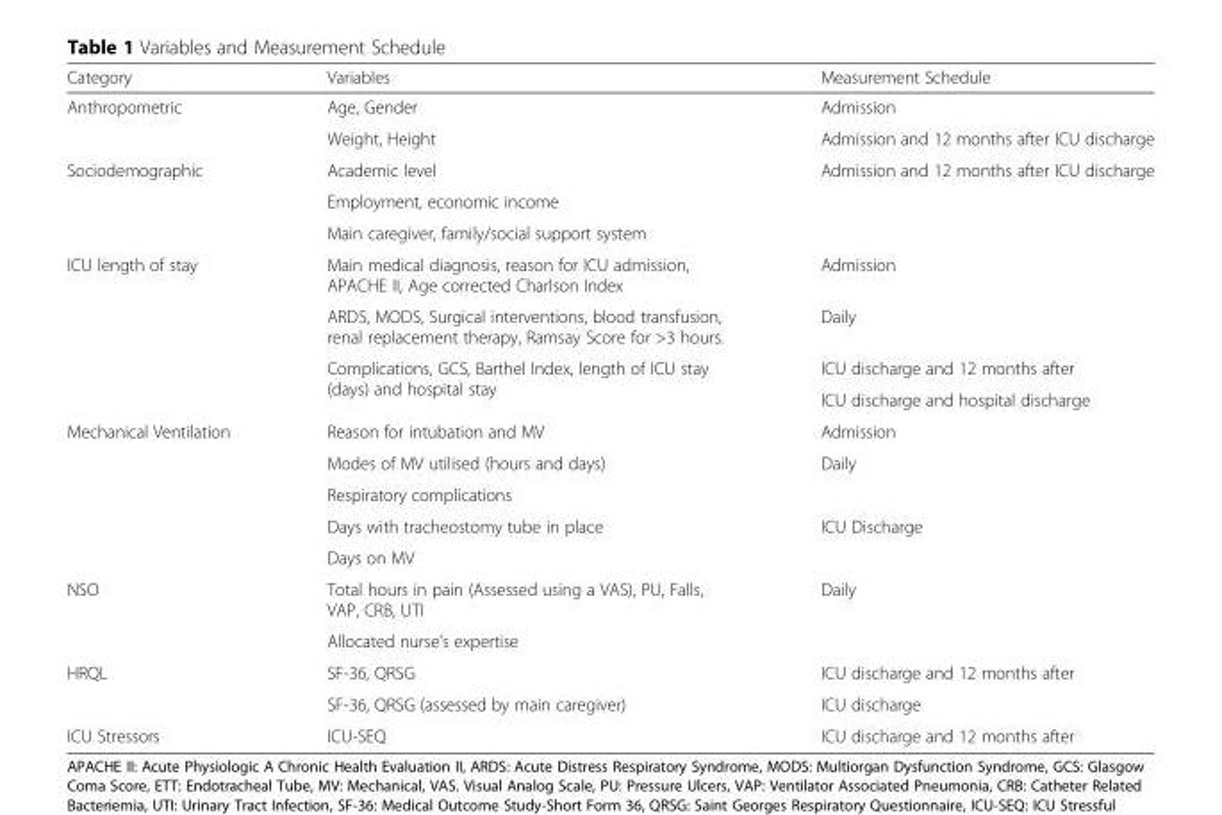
<table><thead><tr><td>Category</td><td>Variables</td><td>Measurement Schedule</td></tr></thead><tbody><tr><td rowspan="2">Anthropometric</td><td>Age, Gender</td><td>Admission</td></tr><tr><td>Weight, Height</td><td>Admission and 12 months after ICU discharge</td></tr><tr><td rowspan="3">Sociodemographic</td><td>Academic level</td><td>Admission and 12 months after ICU discharge</td></tr><tr><td>Employment, economic income</td><td></td></tr><tr><td>Main caregiver, family/social support system</td><td></td></tr><tr><td rowspan="4">ICU length of stay</td><td>Main medical diagnosis, reason for ICU admission, APACHE II, Age corrected Charlson Index</td><td>Admission</td></tr><tr><td>ARDS, MODS, Surgical interventions, blood transfusion, renal replacement therapy, Ramsay Score for &gt;3 hours.</td><td>Daily</td></tr><tr><td rowspan="2">Complications, GCS, Barthel Index, length of ICU stay (days) and hospital stay</td><td>ICU discharge and 12 months after</td></tr><tr><td>ICU discharge and hospital discharge</td></tr><tr><td rowspan="5">Mechanical Ventilation</td><td>Reason for intubation and MV</td><td>Admission</td></tr><tr><td>Modes of MV utilised (hours and days)</td><td rowspan="2">Daily</td></tr><tr><td>Respiratory complications</td></tr><tr><td>Days with tracheostomy tube in place</td><td rowspan="2">ICU Discharge</td></tr><tr><td>Days on MV</td></tr><tr><td rowspan="2">NSO</td><td>Total hours in pain (Assessed using a VAS), PU, Falls, VAP, CRB, UTI</td><td rowspan="2">Daily</td></tr><tr><td>Allocated nurse’s expertise</td></tr><tr><td rowspan="2">HRQL</td><td>SF-36, QRSG</td><td>ICU discharge and 12 months after</td></tr><tr><td>SF-36, QRSG (assessed by main caregiver)</td><td>ICU discharge</td></tr><tr><td>ICU Stressors</td><td>ICU-SEQ</td><td>ICU discharge and 12 months after</td></tr></tbody></table>